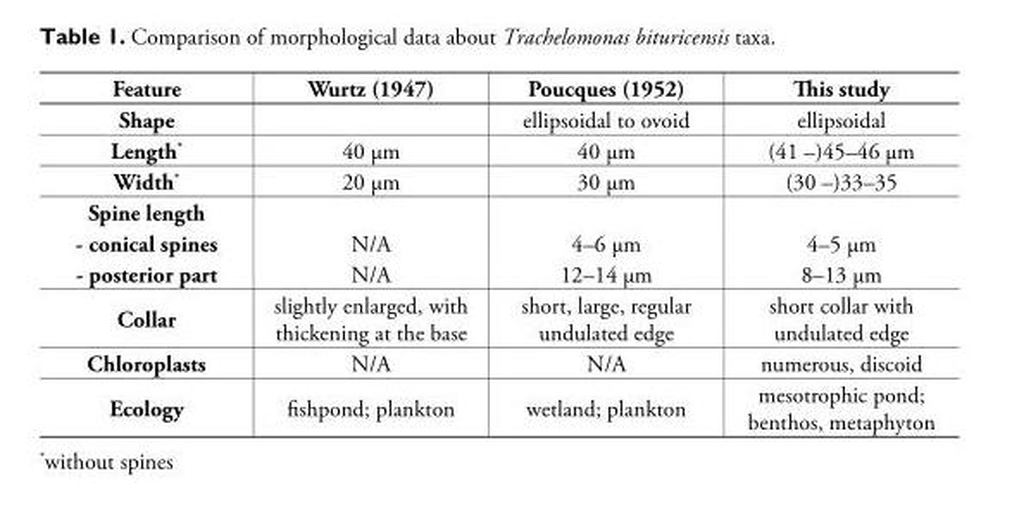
<table><thead><tr><td>Feature</td><td>Wurtz (1947)</td><td>Poucques (1952)</td><td>Th is study</td></tr></thead><tbody><tr><td>Shape</td><td></td><td>ellipsoidal to ovoid</td><td>ellipsoidal</td></tr><tr><td>Length*</td><td>40 μm</td><td>40 μm</td><td>(41 –)45–46 μm</td></tr><tr><td>Width*</td><td>20 μm</td><td>30 μm</td><td>(30 –)33–35</td></tr><tr><td colspan="4">Spine length</td></tr><tr><td>- conical spines</td><td>N/A</td><td>4–6 μm</td><td>4–5 μm</td></tr><tr><td>- posterior part</td><td>N/A</td><td>12–14 μm</td><td>8–13 μm</td></tr><tr><td>Collar</td><td>slightly enlarged, with thickening at the base</td><td>short, large, regular undulated edge</td><td>short collar with undulated edge</td></tr><tr><td>Chloroplasts</td><td>N/A</td><td>N/A</td><td>numerous, discoid</td></tr><tr><td>Ecology</td><td>fi shpond; plankton</td><td>wetland; plankton</td><td>mesotrophic pond; benthos, metaphyton</td></tr></tbody></table>